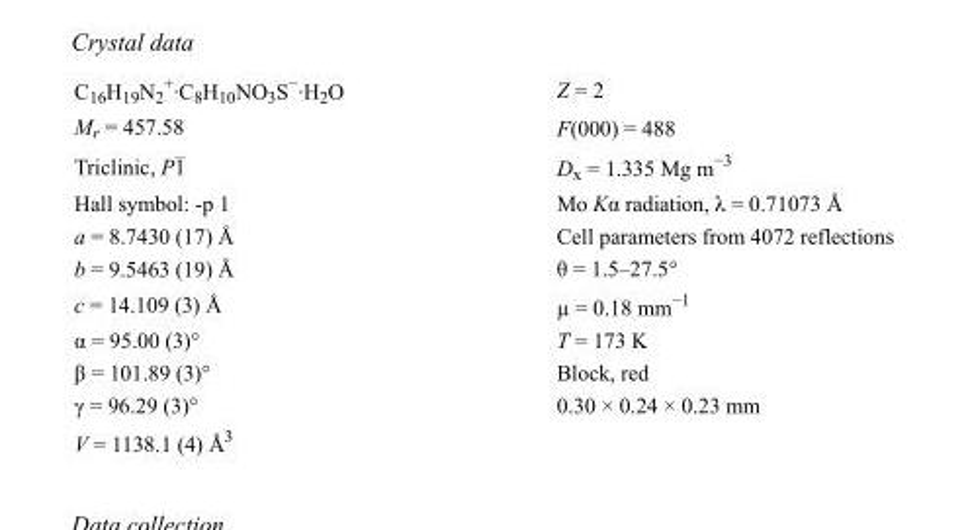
<table><tbody><tr><td>C<sub>16</sub>H<sub>19</sub>N<sub>2</sub> <sup>+</sup>·C<sub>8</sub>H<sub>10</sub>NO<sub>3</sub>S<sup>−</sup>·H<sub>2</sub>O</td><td>Z = 2</td></tr><tr><td>M<sub>r</sub> = 457.58</td><td>F(000) = 488</td></tr><tr><td>Triclinic, P1</td><td>D<sub>x</sub> = 1.335 Mg m<sup>−3</sup></td></tr><tr><td>Hall symbol: -p 1</td><td>Mo Kα radiation, λ = 0.71073 Å</td></tr><tr><td>a = 8.7430 (17) Å</td><td>Cell parameters from 4072 reflections</td></tr><tr><td>b = 9.5463 (19) Å</td><td>θ = 1.5–27.5°</td></tr><tr><td>c = 14.109 (3) Å</td><td>µ = 0.18 mm<sup>−1</sup></td></tr><tr><td>α = 95.00 (3)°</td><td>T = 173 K</td></tr><tr><td>β = 101.89 (3)°</td><td>Block, red</td></tr><tr><td>γ = 96.29 (3)°</td><td>0.30 × 0.24 × 0.23 mm</td></tr><tr><td>V = 1138.1 (4) Å<sup>3</sup></td><td></td></tr></tbody></table>